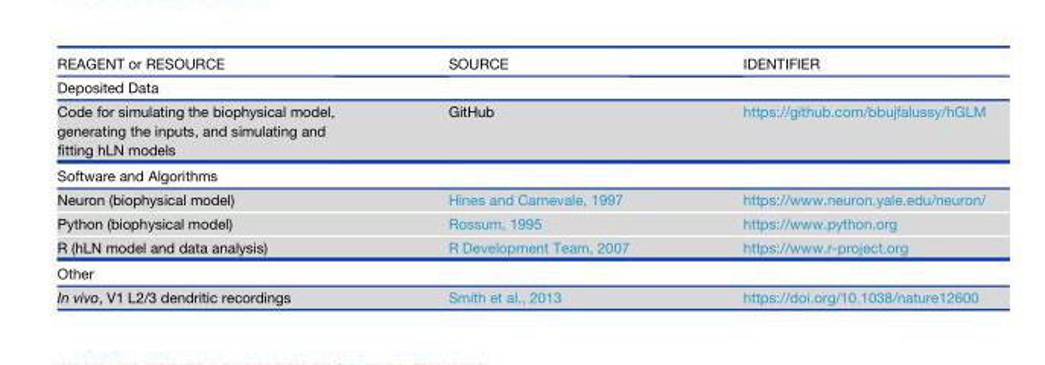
<table><thead><tr><td>REAGENT or RESOURCE</td><td>SOURCE</td><td>IDENTIFIER</td></tr></thead><tbody><tr><td colspan="3">Deposited Data</td></tr><tr><td>Code for simulating the biophysical model, generating the inputs, and simulating and fitting hLN models</td><td>GitHub</td><td>https://github.com/bbujfalussy/hGLM</td></tr><tr><td colspan="3">Software and Algorithms</td></tr><tr><td>Neuron (biophysical model)</td><td>Hines and Carnevale, 1997</td><td>https://www.neuron.yale.edu/neuron/</td></tr><tr><td>Python (biophysical model)</td><td>Rossum, 1995</td><td>https://www.python.org</td></tr><tr><td>R (hLN model and data analysis)</td><td>R Development Team, 2007</td><td>https://www.r-project.org</td></tr><tr><td colspan="3">Other</td></tr><tr><td>In vivo, V1 L2/3 dendritic recordings</td><td>Smith et al., 2013</td><td>https://doi.org/10.1038/nature12600</td></tr></tbody></table>